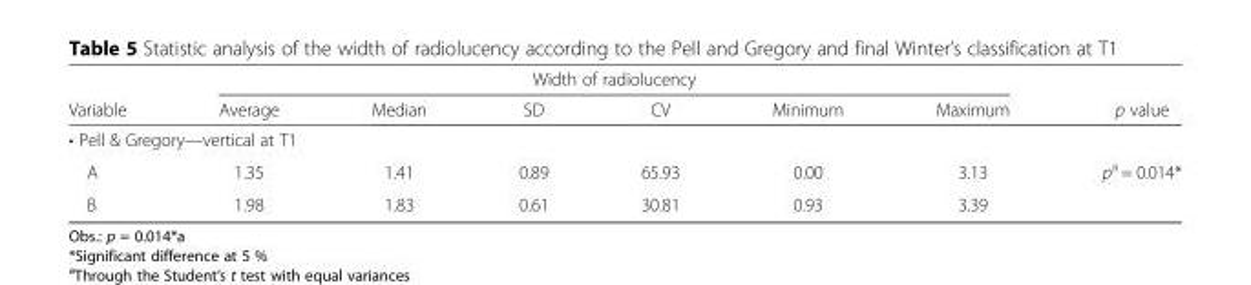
<table><thead><tr><td rowspan="2">Variable</td><td colspan="6">Width of radiolucency</td><td rowspan="2">p value</td></tr><tr><td>Average</td><td>Median</td><td>SD</td><td>CV</td><td>Minimum</td><td>Maximum</td></tr></thead><tbody><tr><td colspan="8">• Pell &amp; Gregory—vertical at T1</td></tr><tr><td>A</td><td>1.35</td><td>1.41</td><td>0.89</td><td>65.93</td><td>0.00</td><td>3.13</td><td>p<sup>a</sup> = 0.014*</td></tr><tr><td>B</td><td>1.98</td><td>1.83</td><td>0.61</td><td>30.81</td><td>0.93</td><td>3.39</td><td></td></tr></tbody></table>